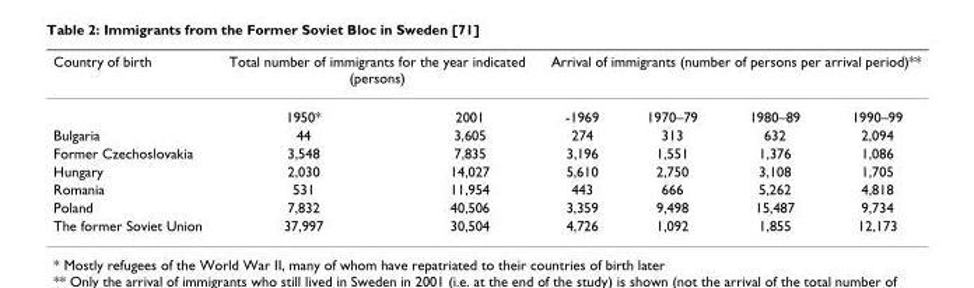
<table><thead><tr><td rowspan="2">Country of birth</td><td colspan="2">Total number of immigrants for the year indicated (persons)</td><td colspan="4">Arrival of immigrants (number of persons per arrival period)**</td></tr><tr><td>1950*</td><td>2001</td><td>-1969</td><td>1970–79</td><td>1980–89</td><td>1990–99</td></tr></thead><tbody><tr><td>Bulgaria</td><td>44</td><td>3,605</td><td>274</td><td>313</td><td>632</td><td>2,094</td></tr><tr><td>Former Czechoslovakia</td><td>3,548</td><td>7,835</td><td>3,196</td><td>1,551</td><td>1,376</td><td>1,086</td></tr><tr><td>Hungary</td><td>2,030</td><td>14,027</td><td>5,610</td><td>2,750</td><td>3,108</td><td>1,705</td></tr><tr><td>Romania</td><td>531</td><td>11,954</td><td>443</td><td>666</td><td>5,262</td><td>4,818</td></tr><tr><td>Poland</td><td>7,832</td><td>40,506</td><td>3,359</td><td>9,498</td><td>15,487</td><td>9,734</td></tr><tr><td>The former Soviet Union</td><td>37,997</td><td>30,504</td><td>4,726</td><td>1,092</td><td>1,855</td><td>12,173</td></tr></tbody></table>